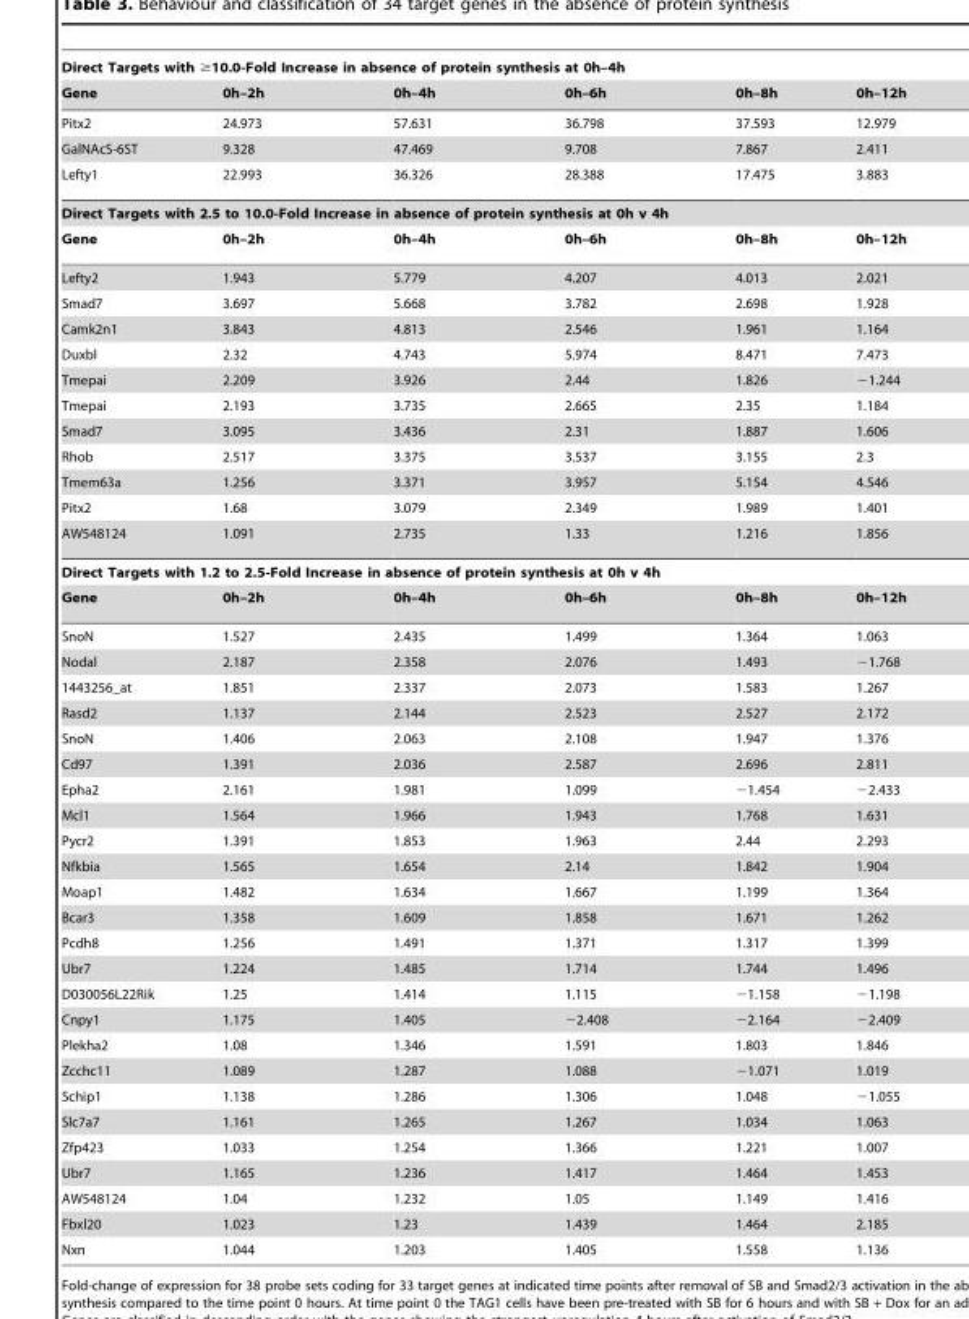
<table><thead><tr><td colspan="6">Direct Targets with ≥10.0-Fold Increase in absence of protein synthesis at 0h–4h</td></tr><tr><td>Gene</td><td>0h–2h</td><td>0h–4h</td><td>0h–6h</td><td>0h–8h</td><td>0h–12h</td></tr></thead><tbody><tr><td>Pitx2</td><td>24.973</td><td>57.631</td><td>36.798</td><td>37.593</td><td>12.979</td></tr><tr><td>GalNAcS-6ST</td><td>9.328</td><td>47.469</td><td>9.708</td><td>7.867</td><td>2.411</td></tr><tr><td>Lefty1</td><td>22.993</td><td>36.326</td><td>28.388</td><td>17.475</td><td>3.883</td></tr><tr><td colspan="6">Direct Targets with 2.5 to 10.0-Fold Increase in absence of protein synthesis at 0h v 4h</td></tr><tr><td>Gene</td><td>0h–2h</td><td>0h–4h</td><td>0h–6h</td><td>0h–8h</td><td>0h–12h</td></tr><tr><td>Lefty2</td><td>1.943</td><td>5.779</td><td>4.207</td><td>4.013</td><td>2.021</td></tr><tr><td>Smad7</td><td>3.697</td><td>5.668</td><td>3.782</td><td>2.698</td><td>1.928</td></tr><tr><td>Camk2n1</td><td>3.843</td><td>4.813</td><td>2.546</td><td>1.961</td><td>1.164</td></tr><tr><td>Duxbl</td><td>2.32</td><td>4.743</td><td>5.974</td><td>8.471</td><td>7.473</td></tr><tr><td>Tmepai</td><td>2.209</td><td>3.926</td><td>2.44</td><td>1.826</td><td>−1.244</td></tr><tr><td>Tmepai</td><td>2.193</td><td>3.735</td><td>2.665</td><td>2.35</td><td>1.184</td></tr><tr><td>Smad7</td><td>3.095</td><td>3.436</td><td>2.31</td><td>1.887</td><td>1.606</td></tr><tr><td>Rhob</td><td>2.517</td><td>3.375</td><td>3.537</td><td>3.155</td><td>2.3</td></tr><tr><td>Tmem63a</td><td>1.256</td><td>3.371</td><td>3.957</td><td>5.154</td><td>4.546</td></tr><tr><td>Pitx2</td><td>1.68</td><td>3.079</td><td>2.349</td><td>1.989</td><td>1.401</td></tr><tr><td>AW548124</td><td>1.091</td><td>2.735</td><td>1.33</td><td>1.216</td><td>1.856</td></tr><tr><td colspan="6">Direct Targets with 1.2 to 2.5-Fold Increase in absence of protein synthesis at 0h v 4h</td></tr><tr><td>Gene</td><td>0h–2h</td><td>0h–4h</td><td>0h–6h</td><td>0h–8h</td><td>0h–12h</td></tr><tr><td>SnoN</td><td>1.527</td><td>2.435</td><td>1.499</td><td>1.364</td><td>1.063</td></tr><tr><td>Nodal</td><td>2.187</td><td>2.358</td><td>2.076</td><td>1.493</td><td>−1.768</td></tr><tr><td>1443256_at</td><td>1.851</td><td>2.337</td><td>2.073</td><td>1.583</td><td>1.267</td></tr><tr><td>Rasd2</td><td>1.137</td><td>2.144</td><td>2.523</td><td>2.527</td><td>2.172</td></tr><tr><td>SnoN</td><td>1.406</td><td>2.063</td><td>2.108</td><td>1.947</td><td>1.376</td></tr><tr><td>Cd97</td><td>1.391</td><td>2.036</td><td>2.587</td><td>2.696</td><td>2.811</td></tr><tr><td>Epha2</td><td>2.161</td><td>1.981</td><td>1.099</td><td>−1.454</td><td>−2.433</td></tr><tr><td>Mcl1</td><td>1.564</td><td>1.966</td><td>1.943</td><td>1.768</td><td>1.631</td></tr><tr><td>Pycr2</td><td>1.391</td><td>1.853</td><td>1.963</td><td>2.44</td><td>2.293</td></tr><tr><td>Nfkbia</td><td>1.565</td><td>1.654</td><td>2.14</td><td>1.842</td><td>1.904</td></tr><tr><td>Moap1</td><td>1.482</td><td>1.634</td><td>1.667</td><td>1.199</td><td>1.364</td></tr><tr><td>Bcar3</td><td>1.358</td><td>1.609</td><td>1.858</td><td>1.671</td><td>1.262</td></tr><tr><td>Pcdh8</td><td>1.256</td><td>1.491</td><td>1.371</td><td>1.317</td><td>1.399</td></tr><tr><td>Ubr7</td><td>1.224</td><td>1.485</td><td>1.714</td><td>1.744</td><td>1.496</td></tr><tr><td>D030056L22Rik</td><td>1.25</td><td>1.414</td><td>1.115</td><td>−1.158</td><td>−1.198</td></tr><tr><td>Cnpy1</td><td>1.175</td><td>1.405</td><td>−2.408</td><td>−2.164</td><td>−2.409</td></tr><tr><td>Plekha2</td><td>1.08</td><td>1.346</td><td>1.591</td><td>1.803</td><td>1.846</td></tr><tr><td>Zcchc11</td><td>1.089</td><td>1.287</td><td>1.088</td><td>−1.071</td><td>1.019</td></tr><tr><td>Schip1</td><td>1.138</td><td>1.286</td><td>1.306</td><td>1.048</td><td>−1.055</td></tr><tr><td>Slc7a7</td><td>1.161</td><td>1.265</td><td>1.267</td><td>1.034</td><td>1.063</td></tr><tr><td>Zfp423</td><td>1.033</td><td>1.254</td><td>1.366</td><td>1.221</td><td>1.007</td></tr><tr><td>Ubr7</td><td>1.165</td><td>1.236</td><td>1.417</td><td>1.464</td><td>1.453</td></tr><tr><td>AW548124</td><td>1.04</td><td>1.232</td><td>1.05</td><td>1.149</td><td>1.416</td></tr><tr><td>Fbxl20</td><td>1.023</td><td>1.23</td><td>1.439</td><td>1.464</td><td>2.185</td></tr><tr><td>Nxn</td><td>1.044</td><td>1.203</td><td>1.405</td><td>1.558</td><td>1.136</td></tr></tbody></table>